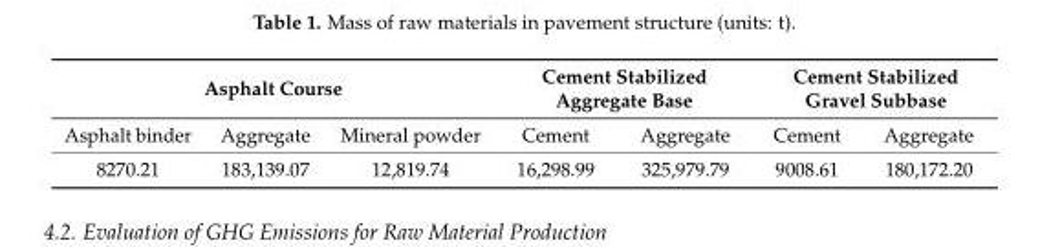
<table><thead><tr><td colspan="3">Asphalt Course</td><td colspan="2">Cement Stabilized Aggregate Base</td><td colspan="2">Cement Stabilized Gravel Subbase</td></tr><tr><td>Asphalt binder</td><td>Aggregate</td><td>Mineral powder</td><td>Cement</td><td>Aggregate</td><td>Cement</td><td>Aggregate</td></tr></thead><tbody><tr><td>8270.21</td><td>183,139.07</td><td>12,819.74</td><td>16,298.99</td><td>325,979.79</td><td>9008.61</td><td>180,172.20</td></tr></tbody></table>